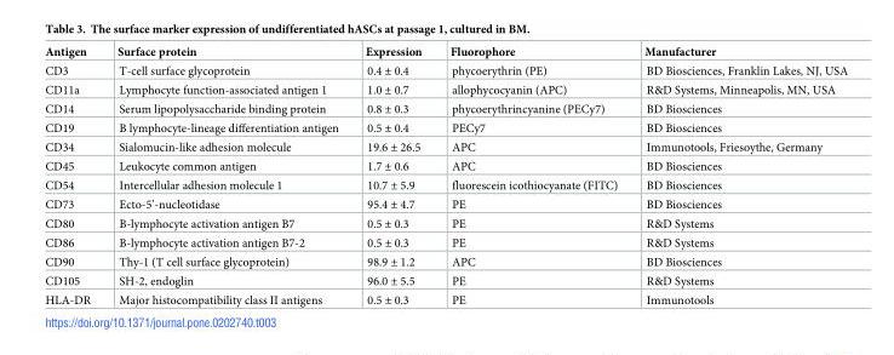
<table><thead><tr><td>Antigen</td><td>Surface protein</td><td>Expression</td><td>Fluorophore</td><td>Manufacturer</td></tr></thead><tbody><tr><td>CD3</td><td>T-cell surface glycoprotein</td><td>0.4 ± 0.4</td><td>phycoerythrin (PE)</td><td>BD Biosciences, Franklin Lakes, NJ, USA</td></tr><tr><td>CD11a</td><td>Lymphocyte function-associated antigen 1</td><td>1.0 ± 0.7</td><td>allophycocyanin (APC)</td><td>R&amp;D Systems, Minneapolis, MN, USA</td></tr><tr><td>CD14</td><td>Serum lipopolysaccharide binding protein</td><td>0.8 ± 0.3</td><td>phycoerythrincyanine (PECy7)</td><td>BD Biosciences</td></tr><tr><td>CD19</td><td>B lymphocyte-lineage differentiation antigen</td><td>0.5 ± 0.4</td><td>PECy7</td><td>BD Biosciences</td></tr><tr><td>CD34</td><td>Sialomucin-like adhesion molecule</td><td>19.6 ± 26.5</td><td>APC</td><td>Immunotools, Friesoythe, Germany</td></tr><tr><td>CD45</td><td>Leukocyte common antigen</td><td>1.7 ± 0.6</td><td>APC</td><td>BD Biosciences</td></tr><tr><td>CD54</td><td>Intercellular adhesion molecule 1</td><td>10.7 ± 5.9</td><td>fluorescein icothiocyanate (FITC)</td><td>BD Biosciences</td></tr><tr><td>CD73</td><td>Ecto-5’-nucleotidase</td><td>95.4 ± 4.7</td><td>PE</td><td>BD Biosciences</td></tr><tr><td>CD80</td><td>B-lymphocyte activation antigen B7</td><td>0.5 ± 0.3</td><td>PE</td><td>R&amp;D Systems</td></tr><tr><td>CD86</td><td>B-lymphocyte activation antigen B7-2</td><td>0.5 ± 0.3</td><td>PE</td><td>R&amp;D Systems</td></tr><tr><td>CD90</td><td>Thy-1 (T cell surface glycoprotein)</td><td>98.9 ± 1.2</td><td>APC</td><td>BD Biosciences</td></tr><tr><td>CD105</td><td>SH-2, endoglin</td><td>96.0 ± 5.5</td><td>PE</td><td>R&amp;D Systems</td></tr><tr><td>HLA-DR</td><td>Major histocompatibility class II antigens</td><td>0.5 ± 0.3</td><td>PE</td><td>Immunotools</td></tr></tbody></table>